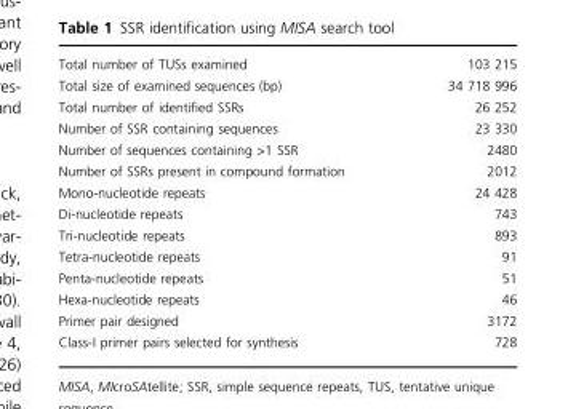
<table><tbody><tr><td>Total number of TUSs examined</td><td>103 215</td></tr><tr><td>Total size of examined sequences (bp)</td><td>34 718 996</td></tr><tr><td>Total number of identified SSRs</td><td>26 252</td></tr><tr><td>Number of SSR containing sequences</td><td>23 330</td></tr><tr><td>Number of sequences containing &gt;1 SSR</td><td>2480</td></tr><tr><td>Number of SSRs present in compound formation</td><td>2012</td></tr><tr><td>Mono-nucleotide repeats</td><td>24 428</td></tr><tr><td>Di-nucleotide repeats</td><td>743</td></tr><tr><td>Tri-nucleotide repeats</td><td>893</td></tr><tr><td>Tetra-nucleotide repeats</td><td>91</td></tr><tr><td>Penta-nucleotide repeats</td><td>51</td></tr><tr><td>Hexa-nucleotide repeats</td><td>46</td></tr><tr><td>Primer pair designed</td><td>3172</td></tr><tr><td>Class-I primer pairs selected for synthesis</td><td>728</td></tr></tbody></table>